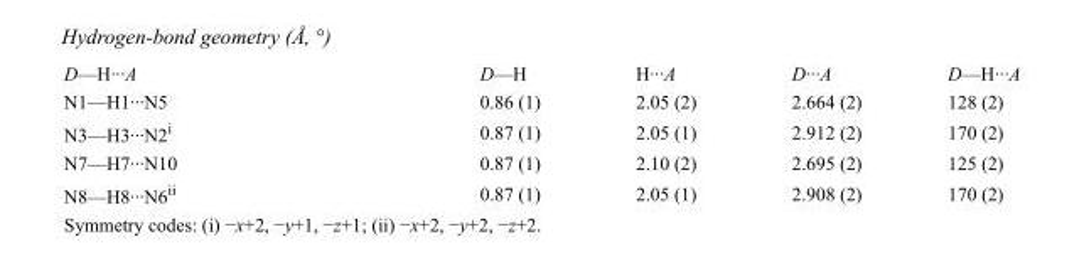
<table><tbody><tr><td>D—H···A</td><td>D—H</td><td>H···A</td><td>D···A</td><td>D—H···A</td></tr><tr><td>N1—H1···N5</td><td>0.86 (1)</td><td>2.05 (2)</td><td>2.664 (2)</td><td>128 (2)</td></tr><tr><td>N3—H3···N2<sup>i</sup></td><td>0.87 (1)</td><td>2.05 (1)</td><td>2.912 (2)</td><td>170 (2)</td></tr><tr><td>N7—H7···N10</td><td>0.87 (1)</td><td>2.10 (2)</td><td>2.695 (2)</td><td>125 (2)</td></tr><tr><td>N8—H8···N6<sup>ii</sup></td><td>0.87 (1)</td><td>2.05 (1)</td><td>2.908 (2)</td><td>170 (2)</td></tr></tbody></table>